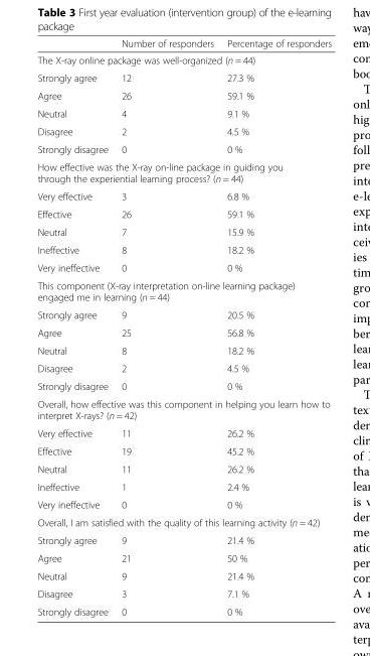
<table><thead><tr><td></td><td>Number of responders</td><td>Percentage of responders</td></tr></thead><tbody><tr><td colspan="3">The X-ray online package was well-organized (n = 44)</td></tr><tr><td>Strongly agree</td><td>12</td><td>27.3 %</td></tr><tr><td>Agree</td><td>26</td><td>59.1 %</td></tr><tr><td>Neutral</td><td>4</td><td>9.1 %</td></tr><tr><td>Disagree</td><td>2</td><td>4.5 %</td></tr><tr><td>Strongly disagree</td><td>0</td><td>0 %</td></tr><tr><td colspan="3">How effective was the X-ray on-line package in guiding you through the experiential learning process? (n = 44)</td></tr><tr><td>Very effective</td><td>3</td><td>6.8 %</td></tr><tr><td>Effective</td><td>26</td><td>59.1 %</td></tr><tr><td>Neutral</td><td>7</td><td>15.9 %</td></tr><tr><td>Ineffective</td><td>8</td><td>18.2 %</td></tr><tr><td>Very ineffective</td><td>0</td><td>0 %</td></tr><tr><td colspan="3">This component (X-ray interpretation on-line learning package) engaged me in learning (n = 44)</td></tr><tr><td>Strongly agree</td><td>9</td><td>20.5 %</td></tr><tr><td>Agree</td><td>25</td><td>56.8 %</td></tr><tr><td>Neutral</td><td>8</td><td>18.2 %</td></tr><tr><td>Disagree</td><td>2</td><td>4.5 %</td></tr><tr><td>Strongly disagree</td><td>0</td><td>0 %</td></tr><tr><td colspan="3">Overall, how effective was this component in helping you learn how to interpret X-rays? (n = 42)</td></tr><tr><td>Very effective</td><td>11</td><td>26.2 %</td></tr><tr><td>Effective</td><td>19</td><td>45.2 %</td></tr><tr><td>Neutral</td><td>11</td><td>26.2 %</td></tr><tr><td>Ineffective</td><td>1</td><td>2.4 %</td></tr><tr><td>Very ineffective</td><td>0</td><td>0 %</td></tr><tr><td colspan="3">Overall, I am satisfied with the quality of this learning activity (n = 42)</td></tr><tr><td>Strongly agree</td><td>9</td><td>21.4 %</td></tr><tr><td>Agree</td><td>21</td><td>50 %</td></tr><tr><td>Neutral</td><td>9</td><td>21.4 %</td></tr><tr><td>Disagree</td><td>3</td><td>7.1 %</td></tr><tr><td>Strongly disagree</td><td>0</td><td>0 %</td></tr></tbody></table>